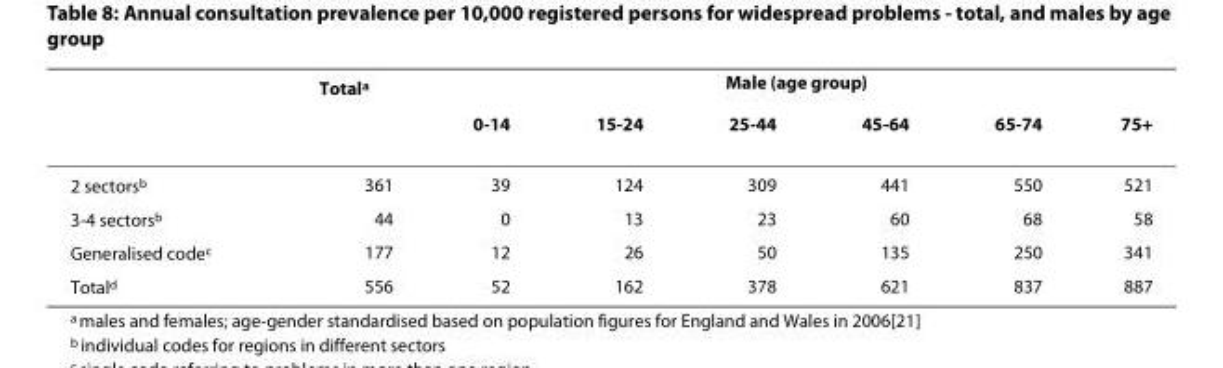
<table><thead><tr><td rowspan="2"></td><td rowspan="2">Total<sup>a</sup></td><td colspan="6">Male (age group)</td></tr><tr><td>0-14</td><td>15-24</td><td>25-44</td><td>45-64</td><td>65-74</td><td>75+</td></tr></thead><tbody><tr><td>2 sectors<sup>b</sup></td><td>361</td><td>39</td><td>124</td><td>309</td><td>441</td><td>550</td><td>521</td></tr><tr><td>3-4 sectors<sup>b</sup></td><td>44</td><td>0</td><td>13</td><td>23</td><td>60</td><td>68</td><td>58</td></tr><tr><td>Generalised code<sup>c</sup></td><td>177</td><td>12</td><td>26</td><td>50</td><td>135</td><td>250</td><td>341</td></tr><tr><td>Total<sup>d</sup></td><td>556</td><td>52</td><td>162</td><td>378</td><td>621</td><td>837</td><td>887</td></tr></tbody></table>